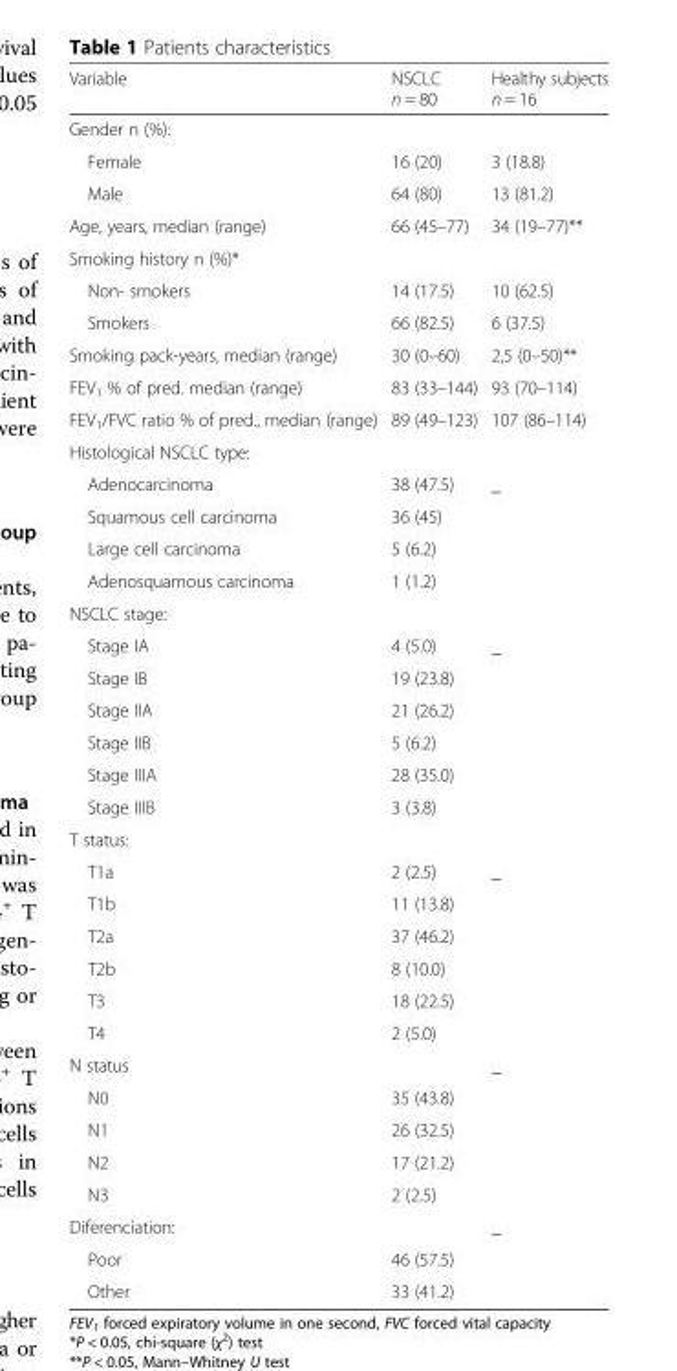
<table><thead><tr><td rowspan="2">Variable</td><td rowspan="2">NSCLC n = 80</td><td rowspan="2">Healthy subjects n = 16</td></tr><tr></tr></thead><tbody><tr><td colspan="3">Gender n (%):</td></tr><tr><td>Female</td><td>16 (20)</td><td>3 (18.8)</td></tr><tr><td>Male</td><td>64 (80)</td><td>13 (81.2)</td></tr><tr><td>Age, years, median (range)</td><td>66 (45–77)</td><td>34 (19–77)**</td></tr><tr><td colspan="3">Smoking history n (%)*</td></tr><tr><td>Non- smokers</td><td>14 (17.5)</td><td>10 (62.5)</td></tr><tr><td>Smokers</td><td>66 (82.5)</td><td>6 (37.5)</td></tr><tr><td>Smoking pack-years, median (range)</td><td>30 (0–60)</td><td>2,5 (0–50)**</td></tr><tr><td>FEV<sub>1</sub> % of pred. median (range)</td><td>83 (33–144)</td><td>93 (70–114)</td></tr><tr><td>FEV<sub>1</sub>/FVC ratio % of pred., median (range)</td><td>89 (49–123)</td><td>107 (86–114)</td></tr><tr><td colspan="3">Histological NSCLC type:</td></tr><tr><td>Adenocarcinoma</td><td>38 (47.5)</td><td rowspan="4">_</td></tr><tr><td>Squamous cell carcinoma</td><td>36 (45)</td></tr><tr><td>Large cell carcinoma</td><td>5 (6.2)</td></tr><tr><td>Adenosquamous carcinoma</td><td>1 (1.2)</td></tr><tr><td colspan="3">NSCLC stage:</td></tr><tr><td>Stage IA</td><td>4 (5.0)</td><td rowspan="6">_</td></tr><tr><td>Stage IB</td><td>19 (23.8)</td></tr><tr><td>Stage IIA</td><td>21 (26.2)</td></tr><tr><td>Stage IIB</td><td>5 (6.2)</td></tr><tr><td>Stage IIIA</td><td>28 (35.0)</td></tr><tr><td>Stage IIIB</td><td>3 (3.8)</td></tr><tr><td colspan="3">T status:</td></tr><tr><td>T1a</td><td>2 (2.5)</td><td rowspan="6">_</td></tr><tr><td>T1b</td><td>11 (13.8)</td></tr><tr><td>T2a</td><td>37 (46.2)</td></tr><tr><td>T2b</td><td>8 (10.0)</td></tr><tr><td>T3</td><td>18 (22.5)</td></tr><tr><td>T4</td><td>2 (5.0)</td></tr><tr><td colspan="2">N status</td><td rowspan="5">_</td></tr><tr><td>N0</td><td>35 (43.8)</td></tr><tr><td>N1</td><td>26 (32.5)</td></tr><tr><td>N2</td><td>17 (21.2)</td></tr><tr><td>N3</td><td>2 (2.5)</td></tr><tr><td colspan="2">Diferenciation:</td><td rowspan="3">_</td></tr><tr><td>Poor</td><td>46 (57.5)</td></tr><tr><td>Other</td><td>33 (41.2)</td></tr></tbody></table>